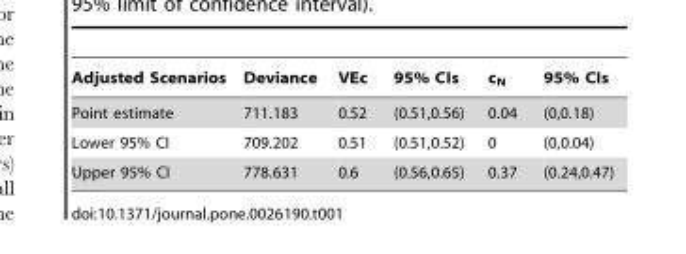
<table><thead><tr><td>Adjusted Scenarios</td><td>Deviance</td><td>VEc</td><td>95% CIs</td><td>c<sub>N</sub></td><td>95% CIs</td></tr></thead><tbody><tr><td>Point estimate</td><td>711.183</td><td>0.52</td><td>(0.51,0.56)</td><td>0.04</td><td>(0,0.18)</td></tr><tr><td>Lower 95% CI</td><td>709.202</td><td>0.51</td><td>(0.51,0.52)</td><td>0</td><td>(0,0.04)</td></tr><tr><td>Upper 95% CI</td><td>778.631</td><td>0.6</td><td>(0.56,0.65)</td><td>0.37</td><td>(0.24,0.47)</td></tr></tbody></table>